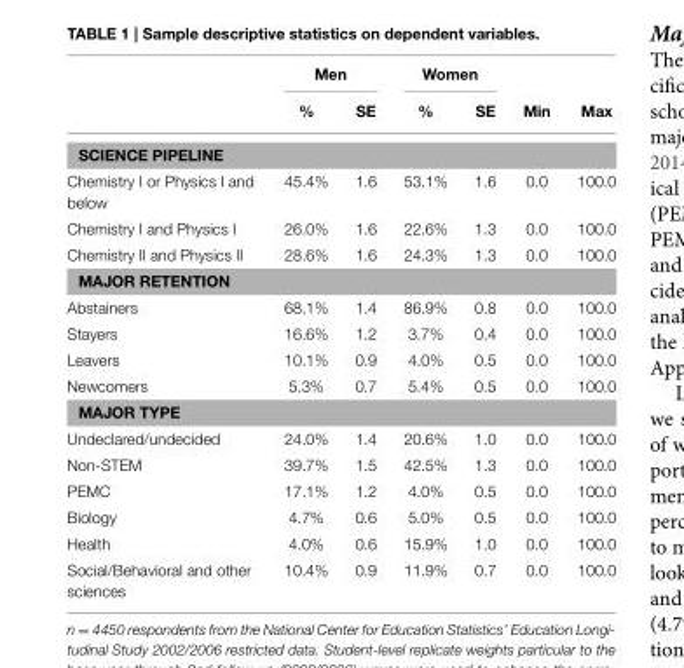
<table><thead><tr><td rowspan="2"></td><td colspan="2">Men</td><td colspan="2">Women</td><td rowspan="2">Min</td><td rowspan="2">Max</td></tr><tr><td>%</td><td>SE</td><td>%</td><td>SE</td></tr></thead><tbody><tr><td colspan="7">SCIENCE PIPELINE</td></tr><tr><td>Chemistry I or Physics I and below</td><td>45.4%</td><td>1.6</td><td>53.1%</td><td>1.6</td><td>0.0</td><td>100.0</td></tr><tr><td>Chemistry I and Physics I</td><td>26.0%</td><td>1.6</td><td>22.6%</td><td>1.3</td><td>0.0</td><td>100.0</td></tr><tr><td>Chemistry II and Physics II</td><td>28.6%</td><td>1.6</td><td>24.3%</td><td>1.3</td><td>0.0</td><td>100.0</td></tr><tr><td colspan="7">MAJOR RETENTION</td></tr><tr><td>Abstainers</td><td>68.1%</td><td>1.4</td><td>86.9%</td><td>0.8</td><td>0.0</td><td>100.0</td></tr><tr><td>Stayers</td><td>16.6%</td><td>1.2</td><td>3.7%</td><td>0.4</td><td>0.0</td><td>100.0</td></tr><tr><td>Leavers</td><td>10.1%</td><td>0.9</td><td>4.0%</td><td>0.5</td><td>0.0</td><td>100.0</td></tr><tr><td>Newcomers</td><td>5.3%</td><td>0.7</td><td>5.4%</td><td>0.5</td><td>0.0</td><td>100.0</td></tr><tr><td colspan="7">MAJOR TYPE</td></tr><tr><td>Undeclared/undecided</td><td>24.0%</td><td>1.4</td><td>20.6%</td><td>1.0</td><td>0.0</td><td>100.0</td></tr><tr><td>Non-STEM</td><td>39.7%</td><td>1.5</td><td>42.5%</td><td>1.3</td><td>0.0</td><td>100.0</td></tr><tr><td>PEMC</td><td>17.1%</td><td>1.2</td><td>4.0%</td><td>0.5</td><td>0.0</td><td>100.0</td></tr><tr><td>Biology</td><td>4.7%</td><td>0.6</td><td>5.0%</td><td>0.5</td><td>0.0</td><td>100.0</td></tr><tr><td>Health</td><td>4.0%</td><td>0.6</td><td>15.9%</td><td>1.0</td><td>0.0</td><td>100.0</td></tr><tr><td>Social/Behavioral and other sciences</td><td>10.4%</td><td>0.9</td><td>11.9%</td><td>0.7</td><td>0.0</td><td>100.0</td></tr></tbody></table>